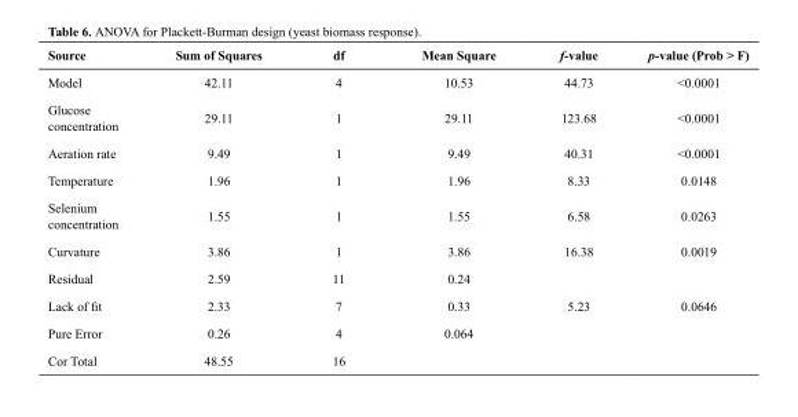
<table><thead><tr><td>Source</td><td>Sum of Squares</td><td>df</td><td>Mean Square</td><td>f-value</td><td>p-value (Prob ˃ F)</td></tr></thead><tbody><tr><td>Model</td><td>42.11</td><td>4</td><td>10.53</td><td>44.73</td><td>˂0.0001</td></tr><tr><td>Glucose concentration</td><td>29.11</td><td>1</td><td>29.11</td><td>123.68</td><td>˂0.0001</td></tr><tr><td>Aeration rate</td><td>9.49</td><td>1</td><td>9.49</td><td>40.31</td><td>˂0.0001</td></tr><tr><td>Temperature</td><td>1.96</td><td>1</td><td>1.96</td><td>8.33</td><td>0.0148</td></tr><tr><td>Selenium concentration</td><td>1.55</td><td>1</td><td>1.55</td><td>6.58</td><td>0.0263</td></tr><tr><td>Curvature</td><td>3.86</td><td>1</td><td>3.86</td><td>16.38</td><td>0.0019</td></tr><tr><td>Residual</td><td>2.59</td><td>11</td><td>0.24</td><td></td><td></td></tr><tr><td>Lack of fit</td><td>2.33</td><td>7</td><td>0.33</td><td>5.23</td><td>0.0646</td></tr><tr><td>Pure Error</td><td>0.26</td><td>4</td><td>0.064</td><td></td><td></td></tr><tr><td>Cor Total</td><td>48.55</td><td>16</td><td></td><td></td><td></td></tr></tbody></table>